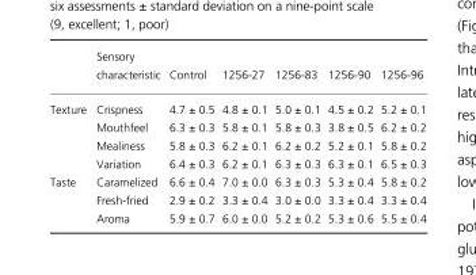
<table><thead><tr><td></td><td>Sensory characteristic</td><td>Control</td><td>1256-27</td><td>1256-83</td><td>1256-90</td><td>1256-96</td></tr></thead><tbody><tr><td rowspan="4">Texture</td><td>Crispness</td><td>4.7 ± 0.5</td><td>4.8 ± 0.1</td><td>5.0 ± 0.1</td><td>4.5 ± 0.2</td><td>5.2 ± 0.1</td></tr><tr><td>Mouthfeel</td><td>6.3 ± 0.3</td><td>5.8 ± 0.1</td><td>5.8 ± 0.3</td><td>3.8 ± 0.5</td><td>6.2 ± 0.2</td></tr><tr><td>Mealiness</td><td>5.8 ± 0.3</td><td>6.2 ± 0.1</td><td>6.2 ± 0.2</td><td>5.2 ± 0.1</td><td>5.8 ± 0.2</td></tr><tr><td>Variation</td><td>6.4 ± 0.3</td><td>6.2 ± 0.1</td><td>6.3 ± 0.3</td><td>6.3 ± 0.1</td><td>6.5 ± 0.3</td></tr><tr><td rowspan="3">Taste</td><td>Caramelized</td><td>6.6 ± 0.4</td><td>7.0 ± 0.0</td><td>6.3 ± 0.3</td><td>5.3 ± 0.4</td><td>5.8 ± 0.2</td></tr><tr><td>Fresh-fried</td><td>2.9 ± 0.2</td><td>3.3 ± 0.4</td><td>3.0 ± 0.0</td><td>3.3 ± 0.4</td><td>3.3 ± 0.4</td></tr><tr><td>Aroma</td><td>5.9 ± 0.7</td><td>6.0 ± 0.0</td><td>5.2 ± 0.2</td><td>5.3 ± 0.6</td><td>5.5 ± 0.4</td></tr></tbody></table>